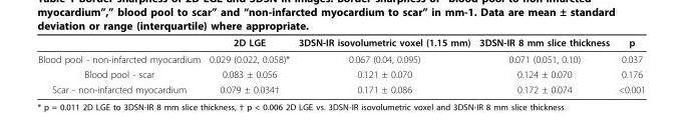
<table><thead><tr><td></td><td>2D LGE</td><td>3DSN-IR isovolumetric voxel (1.15 mm)</td><td>3DSN-IR 8 mm slice thickness</td><td>p</td></tr></thead><tbody><tr><td>Blood pool - non-infarcted myocardium</td><td>0.029 (0.022, 0.058)*</td><td>0.067 (0.04, 0.095)</td><td>0.071 (0.051, 0.10)</td><td>0.037</td></tr><tr><td>Blood pool - scar</td><td>0.083 ± 0.056</td><td>0.121 ± 0.070</td><td>0.124 ± 0.070</td><td>0.176</td></tr><tr><td>Scar - non-infarcted myocardium</td><td>0.079 ± 0.034†</td><td>0.171 ± 0.086</td><td>0.172 ± 0.074</td><td>&lt;0.001</td></tr></tbody></table>